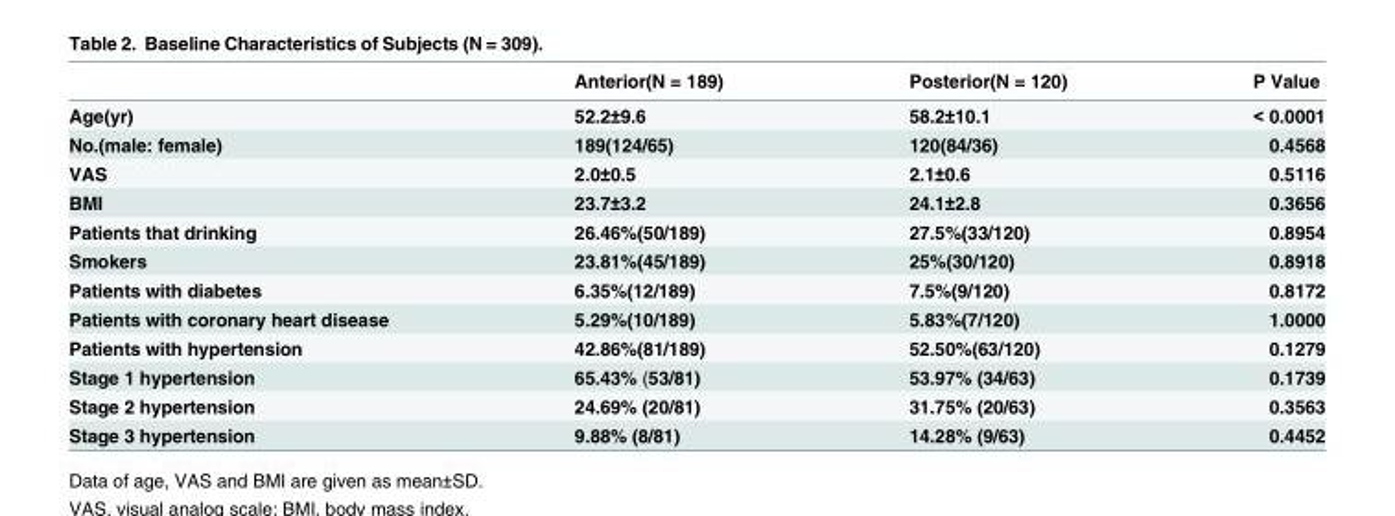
<table><thead><tr><td></td><td>Anterior(N = 189)</td><td>Posterior(N = 120)</td><td>P Value</td></tr></thead><tbody><tr><td>Age(yr)</td><td>52.2±9.6</td><td>58.2±10.1</td><td>&lt; 0.0001</td></tr><tr><td>No.(male: female)</td><td>189(124/65)</td><td>120(84/36)</td><td>0.4568</td></tr><tr><td>VAS</td><td>2.0±0.5</td><td>2.1±0.6</td><td>0.5116</td></tr><tr><td>BMI</td><td>23.7±3.2</td><td>24.1±2.8</td><td>0.3656</td></tr><tr><td>Patients that drinking</td><td>26.46%(50/189)</td><td>27.5%(33/120)</td><td>0.8954</td></tr><tr><td>Smokers</td><td>23.81%(45/189)</td><td>25%(30/120)</td><td>0.8918</td></tr><tr><td>Patients with diabetes</td><td>6.35%(12/189)</td><td>7.5%(9/120)</td><td>0.8172</td></tr><tr><td>Patients with coronary heart disease</td><td>5.29%(10/189)</td><td>5.83%(7/120)</td><td>1.0000</td></tr><tr><td>Patients with hypertension</td><td>42.86%(81/189)</td><td>52.50%(63/120)</td><td>0.1279</td></tr><tr><td>Stage 1 hypertension</td><td>65.43% (53/81)</td><td>53.97% (34/63)</td><td>0.1739</td></tr><tr><td>Stage 2 hypertension</td><td>24.69% (20/81)</td><td>31.75% (20/63)</td><td>0.3563</td></tr><tr><td>Stage 3 hypertension</td><td>9.88% (8/81)</td><td>14.28% (9/63)</td><td>0.4452</td></tr></tbody></table>